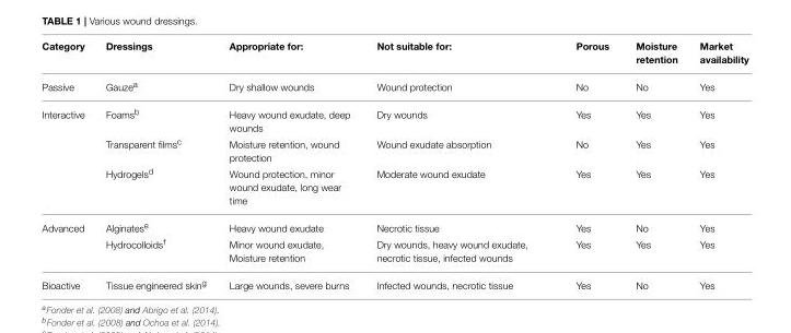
<table><thead><tr><td>Category</td><td>Dressings</td><td>Appropriate for:</td><td>Not suitable for:</td><td>Porous</td><td>Moisture retention</td><td>Market availability</td></tr></thead><tbody><tr><td>Passive</td><td>Gauze<sup>a</sup></td><td>Dry shallow wounds</td><td>Wound protection</td><td>No</td><td>No</td><td>Yes</td></tr><tr><td rowspan="3">Interactive</td><td>Foams<sup>b</sup></td><td>Heavy wound exudate, deep wounds</td><td>Dry wounds</td><td>Yes</td><td>Yes</td><td>Yes</td></tr><tr><td>Transparent films<sup>c</sup></td><td>Moisture retention, wound protection</td><td>Wound exudate absorption</td><td>No</td><td>Yes</td><td>Yes</td></tr><tr><td>Hydrogels<sup>d</sup></td><td>Wound protection, minor wound exudate, long wear time</td><td>Moderate wound exudate</td><td>Yes</td><td>Yes</td><td>Yes</td></tr><tr><td rowspan="2">Advanced</td><td>Alginates<sup>e</sup></td><td>Heavy wound exudate</td><td>Necrotic tissue</td><td>Yes</td><td>No</td><td>Yes</td></tr><tr><td>Hydrocolloids<sup>f</sup></td><td>Minor wound exudate, Moisture retention</td><td>Dry wounds, heavy wound exudate, necrotic tissue, infected wounds</td><td>Yes</td><td>Yes</td><td>Yes</td></tr><tr><td>Bioactive</td><td>Tissue engineered skin<sup>g</sup></td><td>Large wounds, severe burns</td><td>Infected wounds, necrotic tissue</td><td>Yes</td><td>No</td><td>Yes</td></tr></tbody></table>